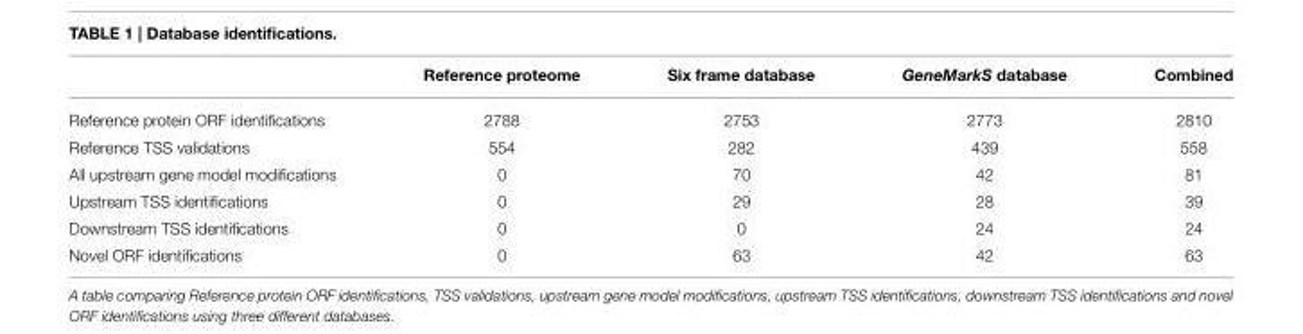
<table><thead><tr><td></td><td>Reference proteome</td><td>Six frame database</td><td>GeneMarkS database</td><td>Combined</td></tr></thead><tbody><tr><td>Reference protein ORF identifications</td><td>2788</td><td>2753</td><td>2773</td><td>2810</td></tr><tr><td>Reference TSS validations</td><td>554</td><td>282</td><td>439</td><td>558</td></tr><tr><td>All upstream gene model modifications</td><td>0</td><td>70</td><td>42</td><td>81</td></tr><tr><td>Upstream TSS identifications</td><td>0</td><td>29</td><td>28</td><td>39</td></tr><tr><td>Downstream TSS identifications</td><td>0</td><td>0</td><td>24</td><td>24</td></tr><tr><td>Novel ORF identifications</td><td>0</td><td>63</td><td>42</td><td>63</td></tr></tbody></table>